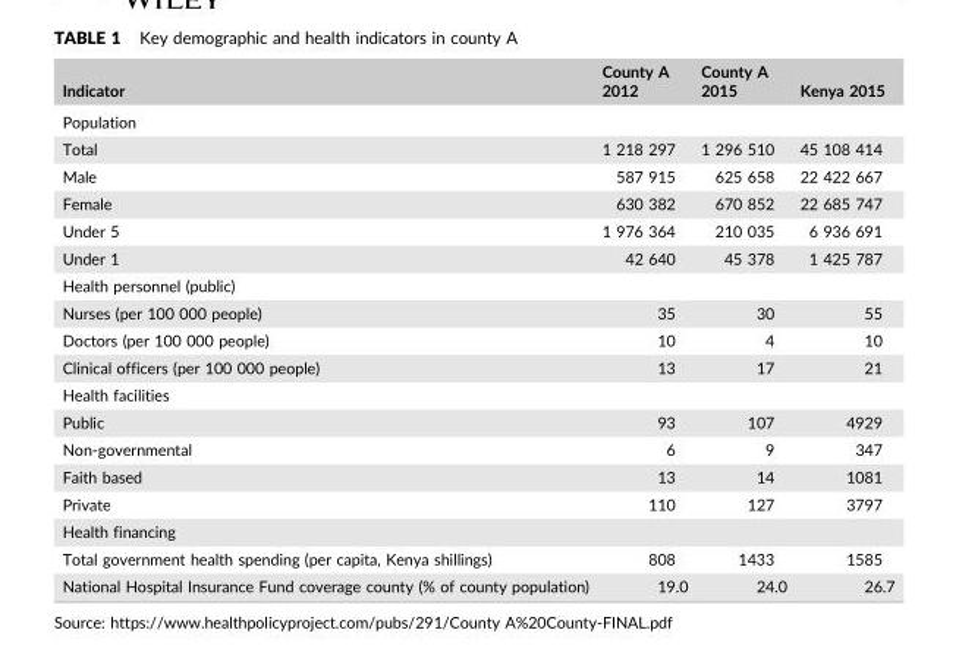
<table><thead><tr><td>Indicator</td><td>County A 2012</td><td>County A 2015</td><td>Kenya 2015</td></tr></thead><tbody><tr><td colspan="4">Population</td></tr><tr><td>Total</td><td>1 218 297</td><td>1 296 510</td><td>45 108 414</td></tr><tr><td>Male</td><td>587 915</td><td>625 658</td><td>22 422 667</td></tr><tr><td>Female</td><td>630 382</td><td>670 852</td><td>22 685 747</td></tr><tr><td>Under 5</td><td>1 976 364</td><td>210 035</td><td>6 936 691</td></tr><tr><td>Under 1</td><td>42 640</td><td>45 378</td><td>1 425 787</td></tr><tr><td colspan="4">Health personnel (public)</td></tr><tr><td>Nurses (per 100 000 people)</td><td>35</td><td>30</td><td>55</td></tr><tr><td>Doctors (per 100 000 people)</td><td>10</td><td>4</td><td>10</td></tr><tr><td>Clinical officers (per 100 000 people)</td><td>13</td><td>17</td><td>21</td></tr><tr><td colspan="4">Health facilities</td></tr><tr><td>Public</td><td>93</td><td>107</td><td>4929</td></tr><tr><td>Non‐governmental</td><td>6</td><td>9</td><td>347</td></tr><tr><td>Faith based</td><td>13</td><td>14</td><td>1081</td></tr><tr><td>Private</td><td>110</td><td>127</td><td>3797</td></tr><tr><td colspan="4">Health financing</td></tr><tr><td>Total government health spending (per capita, Kenya shillings)</td><td>808</td><td>1433</td><td>1585</td></tr><tr><td>National Hospital Insurance Fund coverage county (% of county population)</td><td>19.0</td><td>24.0</td><td>26.7</td></tr></tbody></table>